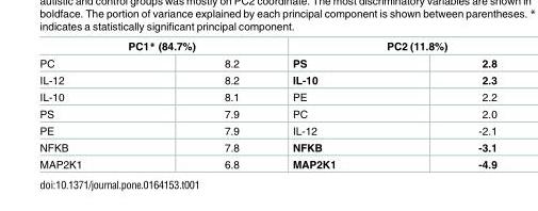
<table><thead><tr><td colspan="2">PC1* (84.7%)</td><td colspan="2">PC2 (11.8%)</td></tr><tr><td>PC</td><td>8.2</td><td>PS</td><td>2.8</td></tr></thead><tbody><tr><td>IL-12</td><td>8.2</td><td>IL-10</td><td>2.3</td></tr><tr><td>IL-10</td><td>8.1</td><td>PE</td><td>2.2</td></tr><tr><td>PS</td><td>7.9</td><td>PC</td><td>2.0</td></tr><tr><td>PE</td><td>7.9</td><td>IL-12</td><td>-2.1</td></tr><tr><td>NFKB</td><td>7.8</td><td>NFKB</td><td>-3.1</td></tr><tr><td>MAP2K1</td><td>6.8</td><td>MAP2K1</td><td>-4.9</td></tr></tbody></table>